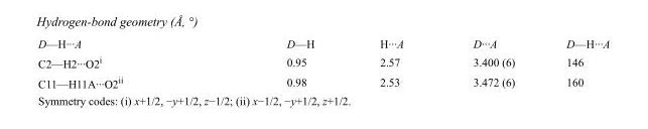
<table><tbody><tr><td>D—H···A</td><td>D—H</td><td>H···A</td><td>D···A</td><td>D—H···A</td></tr><tr><td>C2—H2···O2<sup>i</sup></td><td>0.95</td><td>2.57</td><td>3.400 (6)</td><td>146</td></tr><tr><td>C11—H11A···O2<sup>ii</sup></td><td>0.98</td><td>2.53</td><td>3.472 (6)</td><td>160</td></tr></tbody></table>